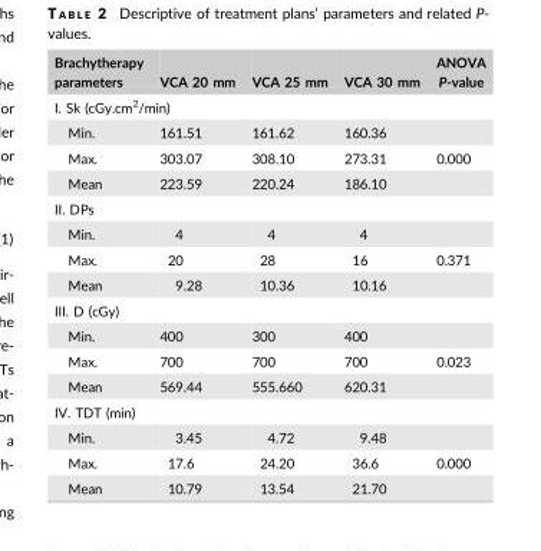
<table><thead><tr><td>Brachytherapy parameters</td><td>VCA 20 mm</td><td>VCA 25 mm</td><td>VCA 30 mm</td><td>ANOVA P-value</td></tr></thead><tbody><tr><td colspan="5">I. Sk (cGy.cm<sup>2</sup>/min)</td></tr><tr><td>Min.</td><td>161.51</td><td>161.62</td><td>160.36</td><td></td></tr><tr><td>Max.</td><td>303.07</td><td>308.10</td><td>273.31</td><td>0.000</td></tr><tr><td>Mean</td><td>223.59</td><td>220.24</td><td>186.10</td><td></td></tr><tr><td colspan="5">II. DPs</td></tr><tr><td>Min.</td><td>4</td><td>4</td><td>4</td><td></td></tr><tr><td>Max.</td><td>20</td><td>28</td><td>16</td><td>0.371</td></tr><tr><td>Mean</td><td>9.28</td><td>10.36</td><td>10.16</td><td></td></tr><tr><td colspan="5">III. D (cGy)</td></tr><tr><td>Min.</td><td>400</td><td>300</td><td>400</td><td></td></tr><tr><td>Max.</td><td>700</td><td>700</td><td>700</td><td>0.023</td></tr><tr><td>Mean</td><td>569.44</td><td>555.660</td><td>620.31</td><td></td></tr><tr><td colspan="5">IV. TDT (min)</td></tr><tr><td>Min.</td><td>3.45</td><td>4.72</td><td>9.48</td><td></td></tr><tr><td>Max.</td><td>17.6</td><td>24.20</td><td>36.6</td><td>0.000</td></tr><tr><td>Mean</td><td>10.79</td><td>13.54</td><td>21.70</td><td></td></tr></tbody></table>